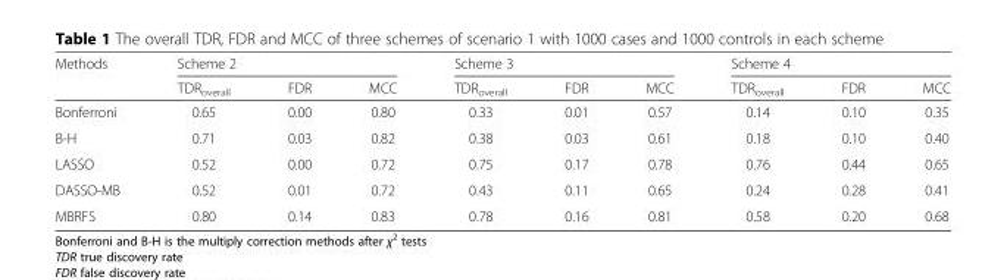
<table><thead><tr><td rowspan="2">Methods</td><td colspan="3">Scheme 2</td><td colspan="3">Scheme 3</td><td colspan="3">Scheme 4</td></tr><tr><td>TDR<sub>overall</sub></td><td>FDR</td><td>MCC</td><td>TDR<sub>overall</sub></td><td>FDR</td><td>MCC</td><td>TDR<sub>overall</sub></td><td>FDR</td><td>MCC</td></tr></thead><tbody><tr><td>Bonferroni</td><td>0.65</td><td>0.00</td><td>0.80</td><td>0.33</td><td>0.01</td><td>0.57</td><td>0.14</td><td>0.10</td><td>0.35</td></tr><tr><td>B-H</td><td>0.71</td><td>0.03</td><td>0.82</td><td>0.38</td><td>0.03</td><td>0.61</td><td>0.18</td><td>0.10</td><td>0.40</td></tr><tr><td>LASSO</td><td>0.52</td><td>0.00</td><td>0.72</td><td>0.75</td><td>0.17</td><td>0.78</td><td>0.76</td><td>0.44</td><td>0.65</td></tr><tr><td>DASSO-MB</td><td>0.52</td><td>0.01</td><td>0.72</td><td>0.43</td><td>0.11</td><td>0.65</td><td>0.24</td><td>0.28</td><td>0.41</td></tr><tr><td>MBRFS</td><td>0.80</td><td>0.14</td><td>0.83</td><td>0.78</td><td>0.16</td><td>0.81</td><td>0.58</td><td>0.20</td><td>0.68</td></tr></tbody></table>